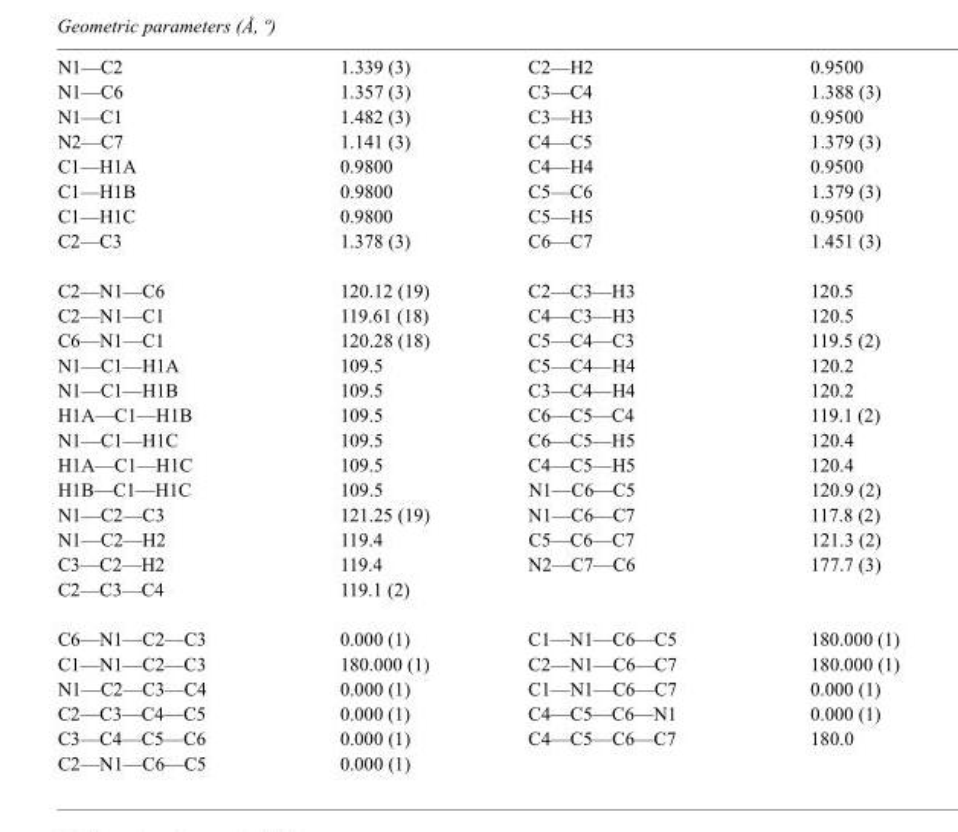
<table><tbody><tr><td>N1—C2</td><td>1.339 (3)</td><td>C2—H2</td><td>0.9500</td></tr><tr><td>N1—C6</td><td>1.357 (3)</td><td>C3—C4</td><td>1.388 (3)</td></tr><tr><td>N1—C1</td><td>1.482 (3)</td><td>C3—H3</td><td>0.9500</td></tr><tr><td>N2—C7</td><td>1.141 (3)</td><td>C4—C5</td><td>1.379 (3)</td></tr><tr><td>C1—H1A</td><td>0.9800</td><td>C4—H4</td><td>0.9500</td></tr><tr><td>C1—H1B</td><td>0.9800</td><td>C5—C6</td><td>1.379 (3)</td></tr><tr><td>C1—H1C</td><td>0.9800</td><td>C5—H5</td><td>0.9500</td></tr><tr><td>C2—C3</td><td>1.378 (3)</td><td>C6—C7</td><td>1.451 (3)</td></tr><tr><td>C2—N1—C6</td><td>120.12 (19)</td><td>C2—C3—H3</td><td>120.5</td></tr><tr><td>C2—N1—C1</td><td>119.61 (18)</td><td>C4—C3—H3</td><td>120.5</td></tr><tr><td>C6—N1—C1</td><td>120.28 (18)</td><td>C5—C4—C3</td><td>119.5 (2)</td></tr><tr><td>N1—C1—H1A</td><td>109.5</td><td>C5—C4—H4</td><td>120.2</td></tr><tr><td>N1—C1—H1B</td><td>109.5</td><td>C3—C4—H4</td><td>120.2</td></tr><tr><td>H1A—C1—H1B</td><td>109.5</td><td>C6—C5—C4</td><td>119.1 (2)</td></tr><tr><td>N1—C1—H1C</td><td>109.5</td><td>C6—C5—H5</td><td>120.4</td></tr><tr><td>H1A—C1—H1C</td><td>109.5</td><td>C4—C5—H5</td><td>120.4</td></tr><tr><td>H1B—C1—H1C</td><td>109.5</td><td>N1—C6—C5</td><td>120.9 (2)</td></tr><tr><td>N1—C2—C3</td><td>121.25 (19)</td><td>N1—C6—C7</td><td>117.8 (2)</td></tr><tr><td>N1—C2—H2</td><td>119.4</td><td>C5—C6—C7</td><td>121.3 (2)</td></tr><tr><td>C3—C2—H2</td><td>119.4</td><td>N2—C7—C6</td><td>177.7 (3)</td></tr><tr><td>C2—C3—C4</td><td>119.1 (2)</td><td></td><td></td></tr><tr><td>C6—N1—C2—C3</td><td>0.000 (1)</td><td>C1—N1—C6—C5</td><td>180.000 (1)</td></tr><tr><td>C1—N1—C2—C3</td><td>180.000 (1)</td><td>C2—N1—C6—C7</td><td>180.000 (1)</td></tr><tr><td>N1—C2—C3—C4</td><td>0.000 (1)</td><td>C1—N1—C6—C7</td><td>0.000 (1)</td></tr><tr><td>C2—C3—C4—C5</td><td>0.000 (1)</td><td>C4—C5—C6—N1</td><td>0.000 (1)</td></tr><tr><td>C3—C4—C5—C6</td><td>0.000 (1)</td><td>C4—C5—C6—C7</td><td>180.0</td></tr><tr><td>C2—N1—C6—C5</td><td>0.000 (1)</td><td></td><td></td></tr></tbody></table>